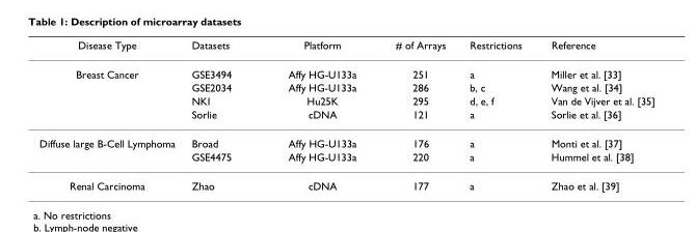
<table><thead><tr><td>Disease Type</td><td>Datasets</td><td>Platform</td><td># of Arrays</td><td>Restrictions</td><td>Reference</td></tr></thead><tbody><tr><td rowspan="4">Breast Cancer</td><td>GSE3494</td><td>Affy HG-U133a</td><td>251</td><td>a</td><td>Miller et al. [33]</td></tr><tr><td>GSE2034</td><td>Affy HG-U133a</td><td>286</td><td>b, c</td><td>Wang et al. [34]</td></tr><tr><td>NKI</td><td>Hu25K</td><td>295</td><td>d, e, f</td><td>Van de Vijver et al. [35]</td></tr><tr><td>Sorlie</td><td>cDNA</td><td>121</td><td>a</td><td>Sorlie et al. [36]</td></tr><tr><td rowspan="2">Diffuse large B-Cell Lymphoma</td><td>Broad</td><td>Affy HG-U133a</td><td>176</td><td>a</td><td>Monti et al. [37]</td></tr><tr><td>GSE4475</td><td>Affy HG-U133a</td><td>220</td><td>a</td><td>Hummel et al. [38]</td></tr><tr><td>Renal Carcinoma</td><td>Zhao</td><td>cDNA</td><td>177</td><td>a</td><td>Zhao et al. [39]</td></tr></tbody></table>